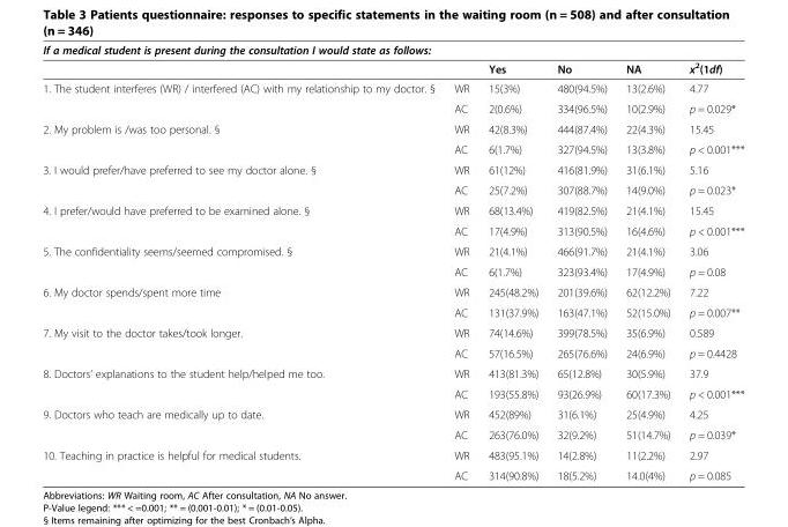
<table><thead><tr><td colspan="6">If a medical student is present during the consultation I would state as follows:</td></tr><tr><td></td><td></td><td>Yes</td><td>No</td><td>NA</td><td>x<sup>2</sup>(1df)</td></tr></thead><tbody><tr><td rowspan="2">1. The student interferes (WR) / interfered (AC) with my relationship to my doctor. §</td><td>WR</td><td>15(3%)</td><td>480(94.5%)</td><td>13(2.6%)</td><td>4.77</td></tr><tr><td>AC</td><td>2(0.6%)</td><td>334(96.5%)</td><td>10(2.9%)</td><td>p = 0.029*</td></tr><tr><td rowspan="2">2. My problem is /was too personal. §</td><td>WR</td><td>42(8.3%)</td><td>444(87.4%)</td><td>22(4.3%)</td><td>15.45</td></tr><tr><td>AC</td><td>6(1.7%)</td><td>327(94.5%)</td><td>13(3.8%)</td><td>p &lt; 0.001***</td></tr><tr><td rowspan="2">3. I would prefer/have preferred to see my doctor alone. §</td><td>WR</td><td>61(12%)</td><td>416(81.9%)</td><td>31(6.1%)</td><td>5.16</td></tr><tr><td>AC</td><td>25(7.2%)</td><td>307(88.7%)</td><td>14(9.0%)</td><td>p = 0.023*</td></tr><tr><td rowspan="2">4. I prefer/would have preferred to be examined alone. §</td><td>WR</td><td>68(13.4%)</td><td>419(82.5%)</td><td>21(4.1%)</td><td>15.45</td></tr><tr><td>AC</td><td>17(4.9%)</td><td>313(90.5%)</td><td>16(4.6%)</td><td>p &lt; 0.001***</td></tr><tr><td rowspan="2">5. The confidentiality seems/seemed compromised. §</td><td>WR</td><td>21(4.1%)</td><td>466(91.7%)</td><td>21(4.1%)</td><td>3.06</td></tr><tr><td>AC</td><td>6(1.7%)</td><td>323(93.4%)</td><td>17(4.9%)</td><td>p = 0.08</td></tr><tr><td rowspan="2">6. My doctor spends/spent more time</td><td>WR</td><td>245(48.2%)</td><td>201(39.6%)</td><td>62(12.2%)</td><td>7.22</td></tr><tr><td>AC</td><td>131(37.9%)</td><td>163(47.1%)</td><td>52(15.0%)</td><td>p = 0.007**</td></tr><tr><td rowspan="2">7. My visit to the doctor takes/took longer.</td><td>WR</td><td>74(14.6%)</td><td>399(78.5%)</td><td>35(6.9%)</td><td>0.589</td></tr><tr><td>AC</td><td>57(16.5%)</td><td>265(76.6%)</td><td>24(6.9%)</td><td>p = 0.4428</td></tr><tr><td rowspan="2">8. Doctors’ explanations to the student help/helped me too.</td><td>WR</td><td>413(81.3%)</td><td>65(12.8%)</td><td>30(5.9%)</td><td>37.9</td></tr><tr><td>AC</td><td>193(55.8%)</td><td>93(26.9%)</td><td>60(17.3%)</td><td>p &lt; 0.001***</td></tr><tr><td rowspan="2">9. Doctors who teach are medically up to date.</td><td>WR</td><td>452(89%)</td><td>31(6.1%)</td><td>25(4.9%)</td><td>4.25</td></tr><tr><td>AC</td><td>263(76.0%)</td><td>32(9.2%)</td><td>51(14.7%)</td><td>p = 0.039*</td></tr><tr><td rowspan="2">10. Teaching in practice is helpful for medical students.</td><td>WR</td><td>483(95.1%)</td><td>14(2.8%)</td><td>11(2.2%)</td><td>2.97</td></tr><tr><td>AC</td><td>314(90.8%)</td><td>18(5.2%)</td><td>14.0(4%)</td><td>p = 0.085</td></tr></tbody></table>